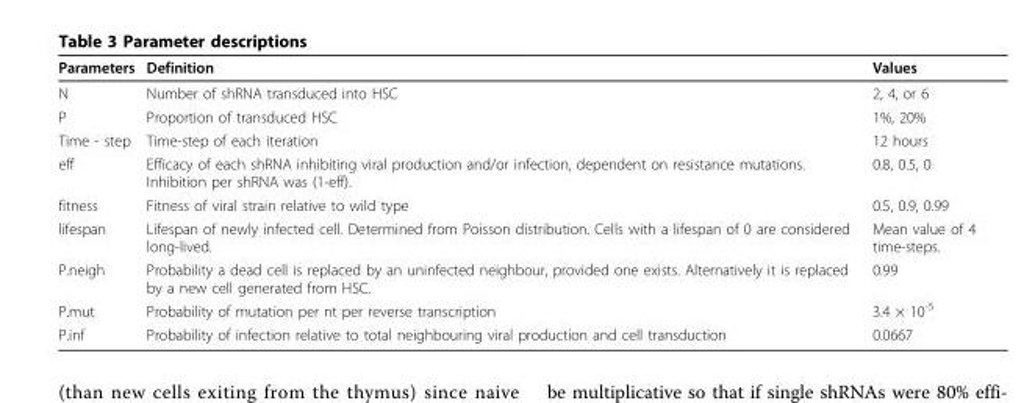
<table><thead><tr><td>Parameters</td><td>Definition</td><td>Values</td></tr></thead><tbody><tr><td>N</td><td>Number of shRNA transduced into HSC</td><td>2, 4, or 6</td></tr><tr><td>P</td><td>Proportion of transduced HSC</td><td>1%, 20%</td></tr><tr><td>Time - step</td><td>Time-step of each iteration</td><td>12 hours</td></tr><tr><td>eff</td><td>Efficacy of each shRNA inhibiting viral production and/or infection, dependent on resistance mutations. Inhibition per shRNA was (1-eff).</td><td>0.8, 0.5, 0</td></tr><tr><td>fitness</td><td>Fitness of viral strain relative to wild type</td><td>0.5, 0.9, 0.99</td></tr><tr><td>lifespan</td><td>Lifespan of newly infected cell. Determined from Poisson distribution. Cells with a lifespan of 0 are considered long-lived.</td><td>Mean value of 4 time-steps.</td></tr><tr><td>P.neigh</td><td>Probability a dead cell is replaced by an uninfected neighbour, provided one exists. Alternatively it is replaced by a new cell generated from HSC.</td><td>0.99</td></tr><tr><td>P.mut</td><td>Probability of mutation per nt per reverse transcription</td><td>3.4 × 10<sup>-5</sup></td></tr><tr><td>P.inf</td><td>Probability of infection relative to total neighbouring viral production and cell transduction</td><td>0.0667</td></tr></tbody></table>